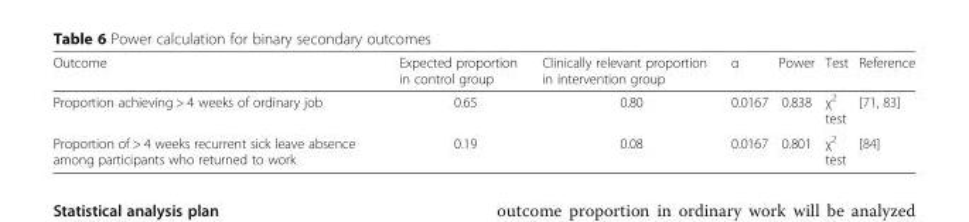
<table><thead><tr><td>Outcome</td><td>Expected proportion in control group</td><td>Clinically relevant proportion in intervention group</td><td>α</td><td>Power</td><td>Test</td><td>Reference</td></tr></thead><tbody><tr><td>Proportion achieving &gt; 4 weeks of ordinary job</td><td>0.65</td><td>0.80</td><td>0.0167</td><td>0.838</td><td>χ<sup>2</sup> test</td><td>[71, 83]</td></tr><tr><td>Proportion of &gt; 4 weeks recurrent sick leave absence among participants who returned to work</td><td>0.19</td><td>0.08</td><td>0.0167</td><td>0.801</td><td>χ<sup>2</sup> test</td><td>[84]</td></tr></tbody></table>